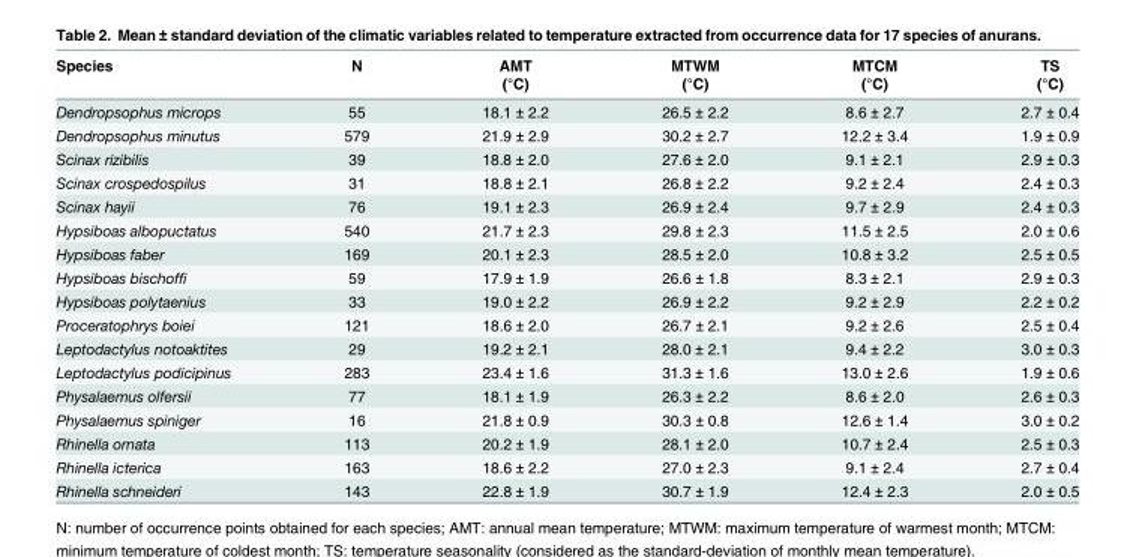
<table><thead><tr><td rowspan="2">Species</td><td rowspan="2">N</td><td rowspan="2">AMT (°C)</td><td rowspan="2">MTWM (°C)</td><td rowspan="2">MTCM (°C)</td><td rowspan="2">TS (°C)</td></tr><tr></tr></thead><tbody><tr><td>Dendropsophus microps</td><td>55</td><td>18.1 ± 2.2</td><td>26.5 ± 2.2</td><td>8.6 ± 2.7</td><td>2.7 ± 0.4</td></tr><tr><td>Dendropsophus minutus</td><td>579</td><td>21.9 ± 2.9</td><td>30.2 ± 2.7</td><td>12.2 ± 3.4</td><td>1.9 ± 0.9</td></tr><tr><td>Scinax rizibilis</td><td>39</td><td>18.8 ± 2.0</td><td>27.6 ± 2.0</td><td>9.1 ± 2.1</td><td>2.9 ± 0.3</td></tr><tr><td>Scinax crospedospilus</td><td>31</td><td>18.8 ± 2.1</td><td>26.8 ± 2.2</td><td>9.2 ± 2.4</td><td>2.4 ± 0.3</td></tr><tr><td>Scinax hayii</td><td>76</td><td>19.1 ± 2.3</td><td>26.9 ± 2.4</td><td>9.7 ± 2.9</td><td>2.4 ± 0.3</td></tr><tr><td>Hypsiboas albopuctatus</td><td>540</td><td>21.7 ± 2.3</td><td>29.8 ± 2.3</td><td>11.5 ± 2.5</td><td>2.0 ± 0.6</td></tr><tr><td>Hypsiboas faber</td><td>169</td><td>20.1 ± 2.3</td><td>28.5 ± 2.0</td><td>10.8 ± 3.2</td><td>2.5 ± 0.5</td></tr><tr><td>Hypsiboas bischoffi</td><td>59</td><td>17.9 ± 1.9</td><td>26.6 ± 1.8</td><td>8.3 ± 2.1</td><td>2.9 ± 0.3</td></tr><tr><td>Hypsiboas polytaenius</td><td>33</td><td>19.0 ± 2.2</td><td>26.9 ± 2.2</td><td>9.2 ± 2.9</td><td>2.2 ± 0.2</td></tr><tr><td>Proceratophrys boiei</td><td>121</td><td>18.6 ± 2.0</td><td>26.7 ± 2.1</td><td>9.2 ± 2.6</td><td>2.5 ± 0.4</td></tr><tr><td>Leptodactylus notoaktites</td><td>29</td><td>19.2 ± 2.1</td><td>28.0 ± 2.1</td><td>9.4 ± 2.2</td><td>3.0 ± 0.3</td></tr><tr><td>Leptodactylus podicipinus</td><td>283</td><td>23.4 ± 1.6</td><td>31.3 ± 1.6</td><td>13.0 ± 2.6</td><td>1.9 ± 0.6</td></tr><tr><td>Physalaemus olfersii</td><td>77</td><td>18.1 ± 1.9</td><td>26.3 ± 2.2</td><td>8.6 ± 2.0</td><td>2.6 ± 0.3</td></tr><tr><td>Physalaemus spiniger</td><td>16</td><td>21.8 ± 0.9</td><td>30.3 ± 0.8</td><td>12.6 ± 1.4</td><td>3.0 ± 0.2</td></tr><tr><td>Rhinella ornata</td><td>113</td><td>20.2 ± 1.9</td><td>28.1 ± 2.0</td><td>10.7 ± 2.4</td><td>2.5 ± 0.3</td></tr><tr><td>Rhinella icterica</td><td>163</td><td>18.6 ± 2.2</td><td>27.0 ± 2.3</td><td>9.1 ± 2.4</td><td>2.7 ± 0.4</td></tr><tr><td>Rhinella schneideri</td><td>143</td><td>22.8 ± 1.9</td><td>30.7 ± 1.9</td><td>12.4 ± 2.3</td><td>2.0 ± 0.5</td></tr></tbody></table>